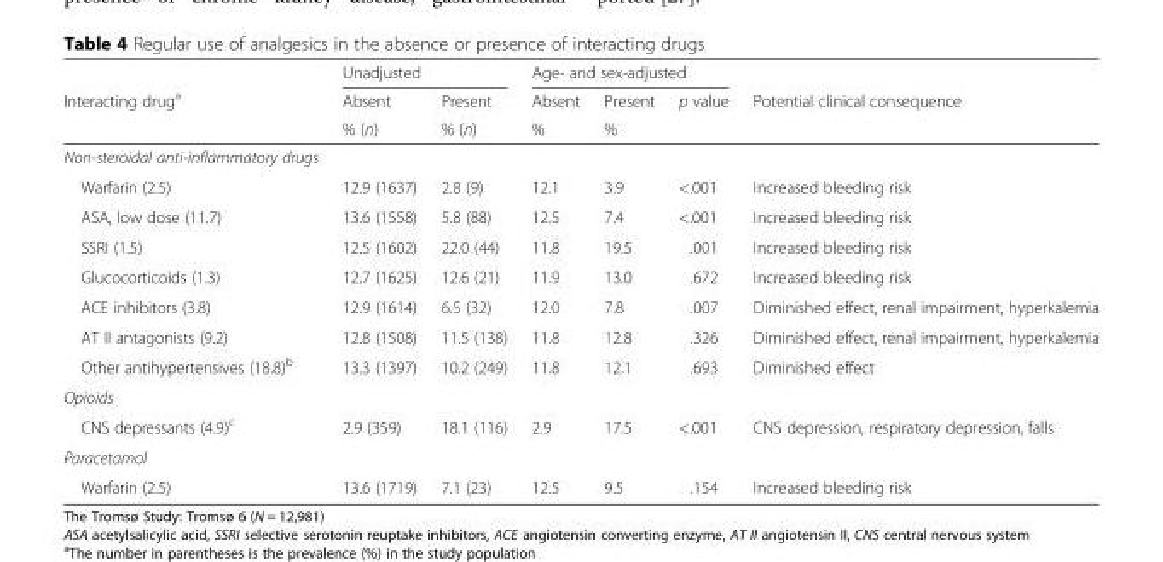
<table><thead><tr><td rowspan="3">Interacting drug<sup>a</sup></td><td colspan="2">Unadjusted</td><td colspan="3">Age- and sex-adjusted</td><td rowspan="3">Potential clinical consequence</td></tr><tr><td rowspan="2">Absent % (n)</td><td rowspan="2">Present % (n)</td><td rowspan="2">Absent %</td><td rowspan="2">Present %</td><td rowspan="2">p value</td></tr><tr></tr></thead><tbody><tr><td colspan="7">Non-steroidal anti-inflammatory drugs</td></tr><tr><td>Warfarin (2.5)</td><td>12.9 (1637)</td><td>2.8 (9)</td><td>12.1</td><td>3.9</td><td>&lt;.001</td><td>Increased bleeding risk</td></tr><tr><td>ASA, low dose (11.7)</td><td>13.6 (1558)</td><td>5.8 (88)</td><td>12.5</td><td>7.4</td><td>&lt;.001</td><td>Increased bleeding risk</td></tr><tr><td>SSRI (1.5)</td><td>12.5 (1602)</td><td>22.0 (44)</td><td>11.8</td><td>19.5</td><td>.001</td><td>Increased bleeding risk</td></tr><tr><td>Glucocorticoids (1.3)</td><td>12.7 (1625)</td><td>12.6 (21)</td><td>11.9</td><td>13.0</td><td>.672</td><td>Increased bleeding risk</td></tr><tr><td>ACE inhibitors (3.8)</td><td>12.9 (1614)</td><td>6.5 (32)</td><td>12.0</td><td>7.8</td><td>.007</td><td>Diminished effect, renal impairment, hyperkalemia</td></tr><tr><td>AT II antagonists (9.2)</td><td>12.8 (1508)</td><td>11.5 (138)</td><td>11.8</td><td>12.8</td><td>.326</td><td>Diminished effect, renal impairment, hyperkalemia</td></tr><tr><td>Other antihypertensives (18.8)<sup>b</sup></td><td>13.3 (1397)</td><td>10.2 (249)</td><td>11.8</td><td>12.1</td><td>.693</td><td>Diminished effect</td></tr><tr><td colspan="7">Opioids</td></tr><tr><td>CNS depressants (4.9)<sup>c</sup></td><td>2.9 (359)</td><td>18.1 (116)</td><td>2.9</td><td>17.5</td><td>&lt;.001</td><td>CNS depression, respiratory depression, falls</td></tr><tr><td colspan="7">Paracetamol</td></tr><tr><td>Warfarin (2.5)</td><td>13.6 (1719)</td><td>7.1 (23)</td><td>12.5</td><td>9.5</td><td>.154</td><td>Increased bleeding risk</td></tr></tbody></table>